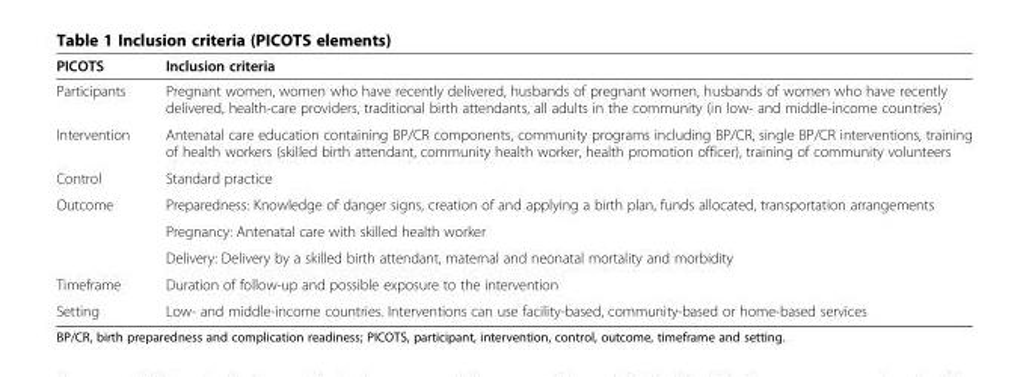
<table><thead><tr><td>PICOTS</td><td>Inclusion criteria</td></tr></thead><tbody><tr><td>Participants</td><td>Pregnant women, women who have recently delivered, husbands of pregnant women, husbands of women who have recently delivered, health-care providers, traditional birth attendants, all adults in the community (in low- and middle-income countries)</td></tr><tr><td>Intervention</td><td>Antenatal care education containing BP/CR components, community programs including BP/CR, single BP/CR interventions, training of health workers (skilled birth attendant, community health worker, health promotion officer), training of community volunteers</td></tr><tr><td>Control</td><td>Standard practice</td></tr><tr><td rowspan="3">Outcome</td><td>Preparedness: Knowledge of danger signs, creation of and applying a birth plan, funds allocated, transportation arrangements</td></tr><tr><td>Pregnancy: Antenatal care with skilled health worker</td></tr><tr><td>Delivery: Delivery by a skilled birth attendant, maternal and neonatal mortality and morbidity</td></tr><tr><td>Timeframe</td><td>Duration of follow-up and possible exposure to the intervention</td></tr><tr><td>Setting</td><td>Low- and middle-income countries. Interventions can use facility-based, community-based or home-based services</td></tr></tbody></table>